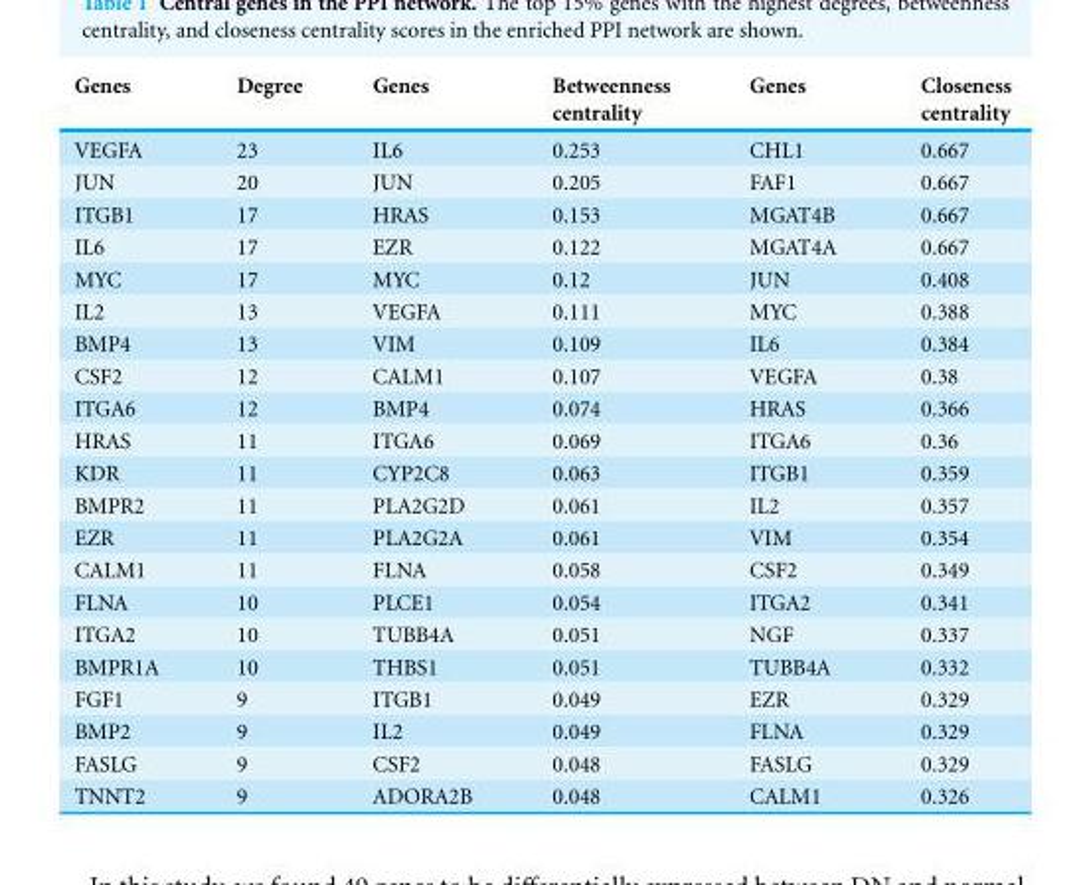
<table><thead><tr><td>Genes</td><td>Degree</td><td>Genes</td><td>Betweenness centrality</td><td>Genes</td><td>Closeness centrality</td></tr></thead><tbody><tr><td>VEGFA</td><td>23</td><td>IL6</td><td>0.253</td><td>CHL1</td><td>0.667</td></tr><tr><td>JUN</td><td>20</td><td>JUN</td><td>0.205</td><td>FAF1</td><td>0.667</td></tr><tr><td>ITGB1</td><td>17</td><td>HRAS</td><td>0.153</td><td>MGAT4B</td><td>0.667</td></tr><tr><td>IL6</td><td>17</td><td>EZR</td><td>0.122</td><td>MGAT4A</td><td>0.667</td></tr><tr><td>MYC</td><td>17</td><td>MYC</td><td>0.12</td><td>JUN</td><td>0.408</td></tr><tr><td>IL2</td><td>13</td><td>VEGFA</td><td>0.111</td><td>MYC</td><td>0.388</td></tr><tr><td>BMP4</td><td>13</td><td>VIM</td><td>0.109</td><td>IL6</td><td>0.384</td></tr><tr><td>CSF2</td><td>12</td><td>CALM1</td><td>0.107</td><td>VEGFA</td><td>0.38</td></tr><tr><td>ITGA6</td><td>12</td><td>BMP4</td><td>0.074</td><td>HRAS</td><td>0.366</td></tr><tr><td>HRAS</td><td>11</td><td>ITGA6</td><td>0.069</td><td>ITGA6</td><td>0.36</td></tr><tr><td>KDR</td><td>11</td><td>CYP2C8</td><td>0.063</td><td>ITGB1</td><td>0.359</td></tr><tr><td>BMPR2</td><td>11</td><td>PLA2G2D</td><td>0.061</td><td>IL2</td><td>0.357</td></tr><tr><td>EZR</td><td>11</td><td>PLA2G2A</td><td>0.061</td><td>VIM</td><td>0.354</td></tr><tr><td>CALM1</td><td>11</td><td>FLNA</td><td>0.058</td><td>CSF2</td><td>0.349</td></tr><tr><td>FLNA</td><td>10</td><td>PLCE1</td><td>0.054</td><td>ITGA2</td><td>0.341</td></tr><tr><td>ITGA2</td><td>10</td><td>TUBB4A</td><td>0.051</td><td>NGF</td><td>0.337</td></tr><tr><td>BMPR1A</td><td>10</td><td>THBS1</td><td>0.051</td><td>TUBB4A</td><td>0.332</td></tr><tr><td>FGF1</td><td>9</td><td>ITGB1</td><td>0.049</td><td>EZR</td><td>0.329</td></tr><tr><td>BMP2</td><td>9</td><td>IL2</td><td>0.049</td><td>FLNA</td><td>0.329</td></tr><tr><td>FASLG</td><td>9</td><td>CSF2</td><td>0.048</td><td>FASLG</td><td>0.329</td></tr><tr><td>TNNT2</td><td>9</td><td>ADORA2B</td><td>0.048</td><td>CALM1</td><td>0.326</td></tr></tbody></table>